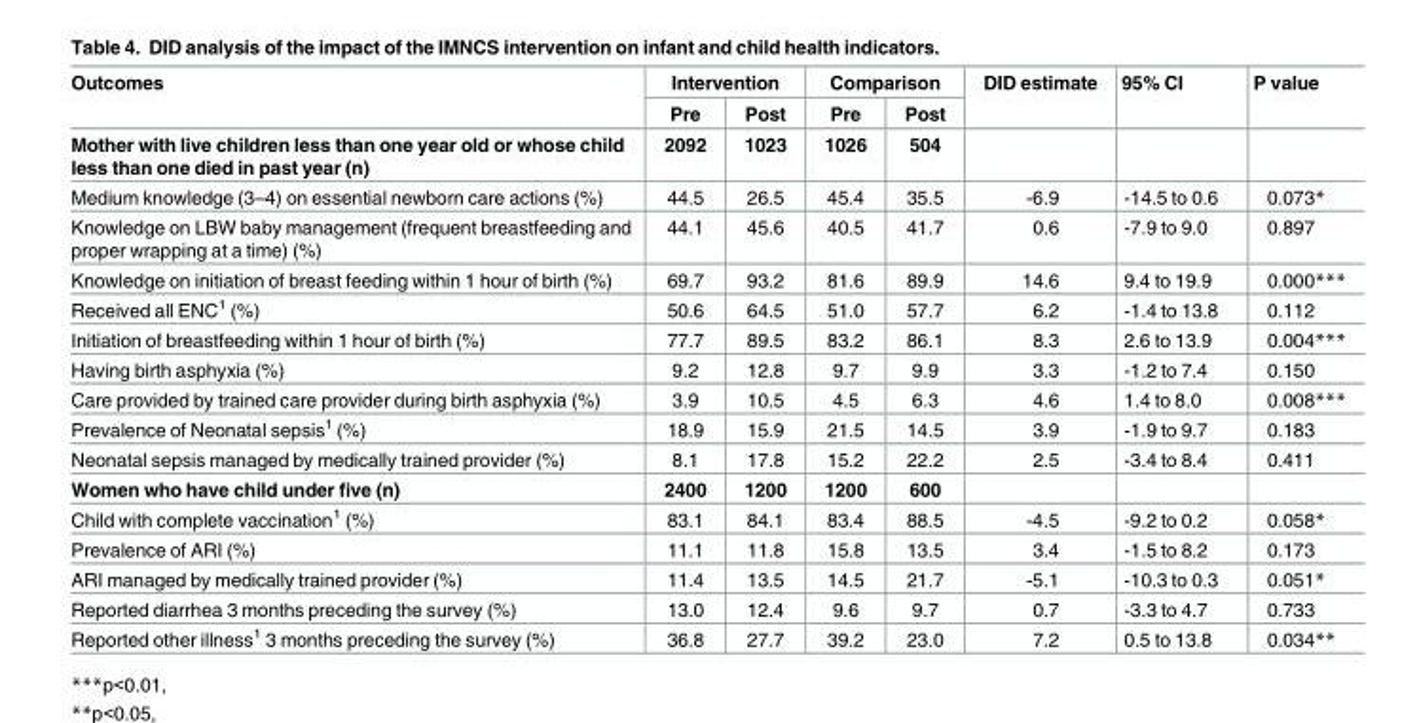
<table><thead><tr><td rowspan="2">Outcomes</td><td colspan="2">Intervention</td><td colspan="2">Comparison</td><td rowspan="2">DID estimate</td><td rowspan="2">95% CI</td><td rowspan="2">P value</td></tr><tr><td>Pre</td><td>Post</td><td>Pre</td><td>Post</td></tr></thead><tbody><tr><td>Mother with live children less than one year old or whose child less than one died in past year (n)</td><td>2092</td><td>1023</td><td>1026</td><td>504</td><td></td><td></td><td></td></tr><tr><td>Medium knowledge (3–4) on essential newborn care actions (%)</td><td>44.5</td><td>26.5</td><td>45.4</td><td>35.5</td><td>-6.9</td><td>-14.5 to 0.6</td><td>0.073*</td></tr><tr><td>Knowledge on LBW baby management (frequent breastfeeding and proper wrapping at a time) (%)</td><td>44.1</td><td>45.6</td><td>40.5</td><td>41.7</td><td>0.6</td><td>-7.9 to 9.0</td><td>0.897</td></tr><tr><td>Knowledge on initiation of breast feeding within 1 hour of birth (%)</td><td>69.7</td><td>93.2</td><td>81.6</td><td>89.9</td><td>14.6</td><td>9.4 to 19.9</td><td>0.000***</td></tr><tr><td>Received all ENC<sup>1</sup> (%)</td><td>50.6</td><td>64.5</td><td>51.0</td><td>57.7</td><td>6.2</td><td>-1.4 to 13.8</td><td>0.112</td></tr><tr><td>Initiation of breastfeeding within 1 hour of birth (%)</td><td>77.7</td><td>89.5</td><td>83.2</td><td>86.1</td><td>8.3</td><td>2.6 to 13.9</td><td>0.004***</td></tr><tr><td>Having birth asphyxia (%)</td><td>9.2</td><td>12.8</td><td>9.7</td><td>9.9</td><td>3.3</td><td>-1.2 to 7.4</td><td>0.150</td></tr><tr><td>Care provided by trained care provider during birth asphyxia (%)</td><td>3.9</td><td>10.5</td><td>4.5</td><td>6.3</td><td>4.6</td><td>1.4 to 8.0</td><td>0.008***</td></tr><tr><td>Prevalence of Neonatal sepsis<sup>1</sup> (%)</td><td>18.9</td><td>15.9</td><td>21.5</td><td>14.5</td><td>3.9</td><td>-1.9 to 9.7</td><td>0.183</td></tr><tr><td>Neonatal sepsis managed by medically trained provider (%)</td><td>8.1</td><td>17.8</td><td>15.2</td><td>22.2</td><td>2.5</td><td>-3.4 to 8.4</td><td>0.411</td></tr><tr><td>Women who have child under five (n)</td><td>2400</td><td>1200</td><td>1200</td><td>600</td><td></td><td></td><td></td></tr><tr><td>Child with complete vaccination<sup>1</sup> (%)</td><td>83.1</td><td>84.1</td><td>83.4</td><td>88.5</td><td>-4.5</td><td>-9.2 to 0.2</td><td>0.058*</td></tr><tr><td>Prevalence of ARI (%)</td><td>11.1</td><td>11.8</td><td>15.8</td><td>13.5</td><td>3.4</td><td>-1.5 to 8.2</td><td>0.173</td></tr><tr><td>ARI managed by medically trained provider (%)</td><td>11.4</td><td>13.5</td><td>14.5</td><td>21.7</td><td>-5.1</td><td>-10.3 to 0.3</td><td>0.051*</td></tr><tr><td>Reported diarrhea 3 months preceding the survey (%)</td><td>13.0</td><td>12.4</td><td>9.6</td><td>9.7</td><td>0.7</td><td>-3.3 to 4.7</td><td>0.733</td></tr><tr><td>Reported other illness<sup>1</sup> 3 months preceding the survey (%)</td><td>36.8</td><td>27.7</td><td>39.2</td><td>23.0</td><td>7.2</td><td>0.5 to 13.8</td><td>0.034**</td></tr></tbody></table>